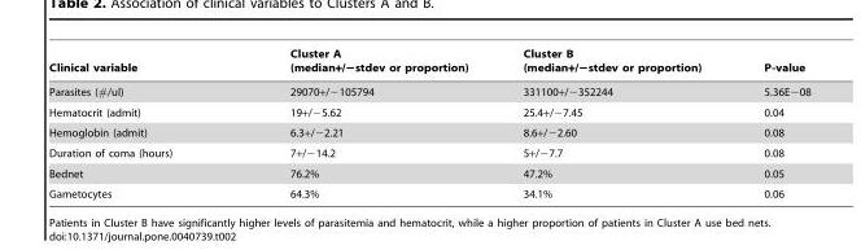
<table><thead><tr><td>Clinical variable</td><td>Cluster A (median+/−stdev or proportion)</td><td>Cluster B (median+/−stdev or proportion)</td><td>P-value</td></tr></thead><tbody><tr><td>Parasites (#/ul)</td><td>29070+/−105794</td><td>331100+/−352244</td><td>5.36E−08</td></tr><tr><td>Hematocrit (admit)</td><td>19+/−5.62</td><td>25.4+/−7.45</td><td>0.04</td></tr><tr><td>Hemoglobin (admit)</td><td>6.3+/−2.21</td><td>8.6+/−2.60</td><td>0.08</td></tr><tr><td>Duration of coma (hours)</td><td>7+/−14.2</td><td>5+/−7.7</td><td>0.08</td></tr><tr><td>Bednet</td><td>76.2%</td><td>47.2%</td><td>0.05</td></tr><tr><td>Gametocytes</td><td>64.3%</td><td>34.1%</td><td>0.06</td></tr></tbody></table>